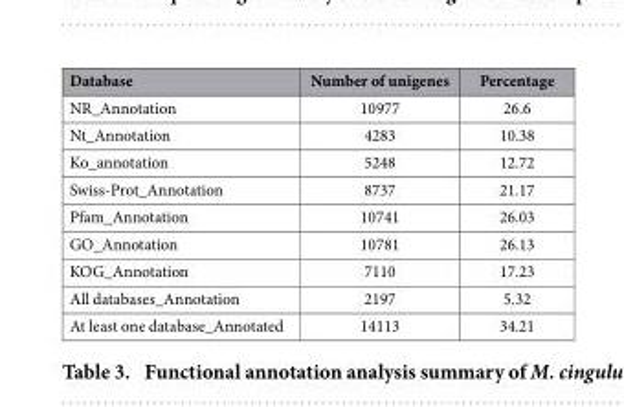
<table><thead><tr><td>Database</td><td>Number of unigenes</td><td>Percentage</td></tr></thead><tbody><tr><td>NR_Annotation</td><td>10977</td><td>26.6</td></tr><tr><td>Nt_Annotation</td><td>4283</td><td>10.38</td></tr><tr><td>Ko_annotation</td><td>5248</td><td>12.72</td></tr><tr><td>Swiss-Prot_Annotation</td><td>8737</td><td>21.17</td></tr><tr><td>Pfam_Annotation</td><td>10741</td><td>26.03</td></tr><tr><td>GO_Annotation</td><td>10781</td><td>26.13</td></tr><tr><td>KOG_Annotation</td><td>7110</td><td>17.23</td></tr><tr><td>All databases_Annotation</td><td>2197</td><td>5.32</td></tr><tr><td>At least one database_Annotated</td><td>14113</td><td>34.21</td></tr></tbody></table>